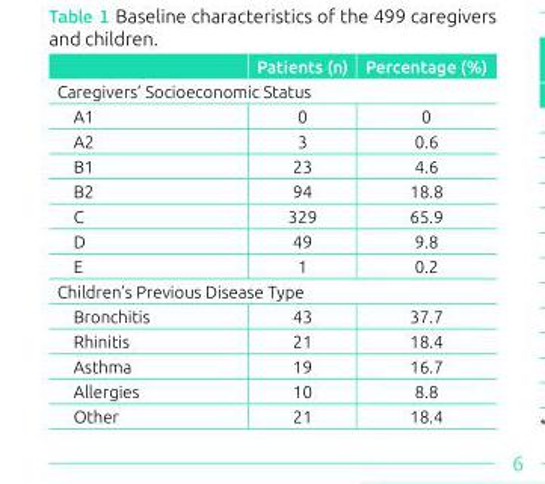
<table><thead><tr><td></td><td>Patients (n)</td><td>Percentage (%)</td></tr></thead><tbody><tr><td colspan="3">Caregivers’ Socioeconomic Status</td></tr><tr><td>A1</td><td>0</td><td>0</td></tr><tr><td>A2</td><td>3</td><td>0.6</td></tr><tr><td>B1</td><td>23</td><td>4.6</td></tr><tr><td>B2</td><td>94</td><td>18.8</td></tr><tr><td>C</td><td>329</td><td>65.9</td></tr><tr><td>D</td><td>49</td><td>9.8</td></tr><tr><td>E</td><td>1</td><td>0.2</td></tr><tr><td colspan="3">Children’s Previous Disease Type</td></tr><tr><td>Bronchitis</td><td>43</td><td>37.7</td></tr><tr><td>Rhinitis</td><td>21</td><td>18.4</td></tr><tr><td>Asthma</td><td>19</td><td>16.7</td></tr><tr><td>Allergies</td><td>10</td><td>8.8</td></tr><tr><td>Other</td><td>21</td><td>18.4</td></tr></tbody></table>